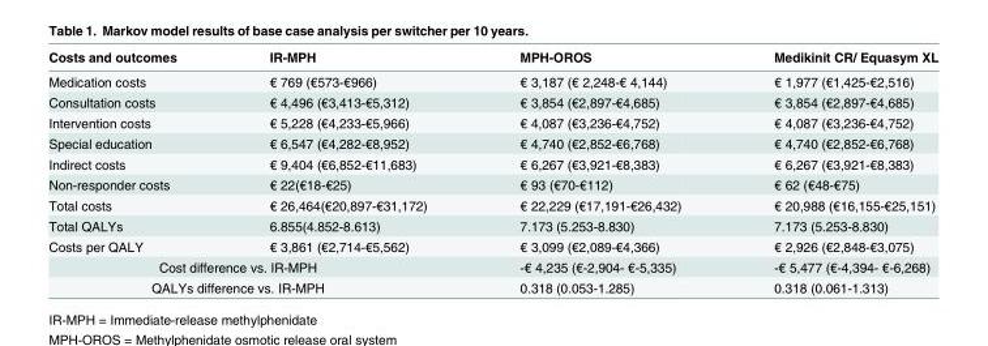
<table><thead><tr><td>Costs and outcomes</td><td>IR-MPH</td><td>MPH-OROS</td><td>Medikinit CR/ Equasym XL</td></tr></thead><tbody><tr><td>Medication costs</td><td>€ 769 (€573-€966)</td><td>€ 3,187 (€ 2,248-€ 4,144)</td><td>€ 1,977 (€1,425-€2,516)</td></tr><tr><td>Consultation costs</td><td>€ 4,496 (€3,413-€5,312)</td><td>€ 3,854 (€2,897-€4,685)</td><td>€ 3,854 (€2,897-€4,685)</td></tr><tr><td>Intervention costs</td><td>€ 5,228 (€4,233-€5,966)</td><td>€ 4,087 (€3,236-€4,752)</td><td>€ 4,087 (€3,236-€4,752)</td></tr><tr><td>Special education</td><td>€ 6,547 (€4,282-€8,952)</td><td>€ 4,740 (€2,852-€6,768)</td><td>€ 4,740 (€2,852-€6,768)</td></tr><tr><td>Indirect costs</td><td>€ 9,404 (€6,852-€11,683)</td><td>€ 6,267 (€3,921-€8,383)</td><td>€ 6,267 (€3,921-€8,383)</td></tr><tr><td>Non-responder costs</td><td>€ 22(€18-€25)</td><td>€ 93 (€70-€112)</td><td>€ 62 (€48-€75)</td></tr><tr><td>Total costs</td><td>€ 26,464(€20,897-€31,172)</td><td>€ 22,229 (€17,191-€26,432)</td><td>€ 20,988 (€16,155-€25,151)</td></tr><tr><td>Total QALYs</td><td>6.855(4.852-8.613)</td><td>7.173 (5.253-8.830)</td><td>7.173 (5.253-8.830)</td></tr><tr><td>Costs per QALY</td><td>€ 3,861 (€2,714-€5,562)</td><td>€ 3,099 (€2,089-€4,366)</td><td>€ 2,926 (€2,848-€3,075)</td></tr><tr><td colspan="2">Cost difference vs. IR-MPH</td><td>-€ 4,235 (€-2,904- €-5,335)</td><td>-€ 5,477 (€-4,394- €-6,268)</td></tr><tr><td colspan="2">QALYs difference vs. IR-MPH</td><td>0.318 (0.053-1.285)</td><td>0.318 (0.061-1.313)</td></tr></tbody></table>